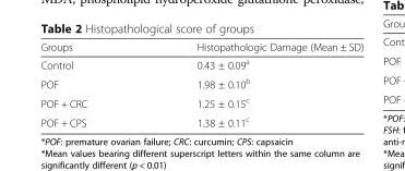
<table><thead><tr><td>Groups</td><td>Histopathologic Damage (Mean ± SD)</td></tr></thead><tbody><tr><td>Control</td><td>0.43 ± 0.09<sup>a</sup></td></tr><tr><td>POF</td><td>1.98 ± 0.10<sup>b</sup></td></tr><tr><td>POF + CRC</td><td>1.25 ± 0.15<sup>c</sup></td></tr><tr><td>POF + CPS</td><td>1.38 ± 0.11<sup>c</sup></td></tr></tbody></table>